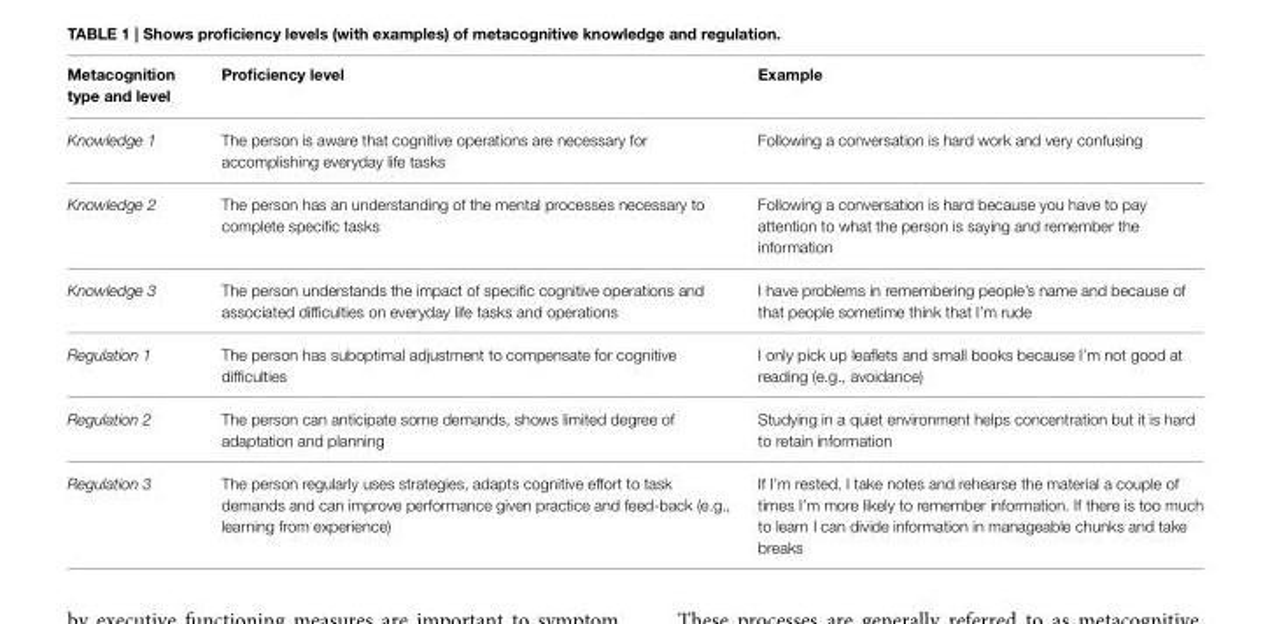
<table><thead><tr><td>Metacognition type and level</td><td>Proficiency level</td><td>Example</td></tr></thead><tbody><tr><td>Knowledge 1</td><td>The person is aware that cognitive operations are necessary for accomplishing everyday life tasks</td><td>Following a conversation is hard work and very confusing</td></tr><tr><td>Knowledge 2</td><td>The person has an understanding of the mental processes necessary to complete specific tasks</td><td>Following a conversation is hard because you have to pay attention to what the person is saying and remember the information</td></tr><tr><td>Knowledge 3</td><td>The person understands the impact of specific cognitive operations and associated difficulties on everyday life tasks and operations</td><td>I have problems in remembering people’s name and because of that people sometime think that I’m rude</td></tr><tr><td>Regulation 1</td><td>The person has suboptimal adjustment to compensate for cognitive difficulties</td><td>I only pick up leaflets and small books because I’m not good at reading (e.g., avoidance)</td></tr><tr><td>Regulation 2</td><td>The person can anticipate some demands, shows limited degree of adaptation and planning</td><td>Studying in a quiet environment helps concentration but it is hard to retain information</td></tr><tr><td>Regulation 3</td><td>The person regularly uses strategies, adapts cognitive effort to task demands and can improve performance given practice and feed-back (e.g., learning from experience)</td><td>If I’m rested, I take notes and rehearse the material a couple of times I’m more likely to remember information. If there is too much to learn I can divide information in manageable chunks and take breaks</td></tr></tbody></table>